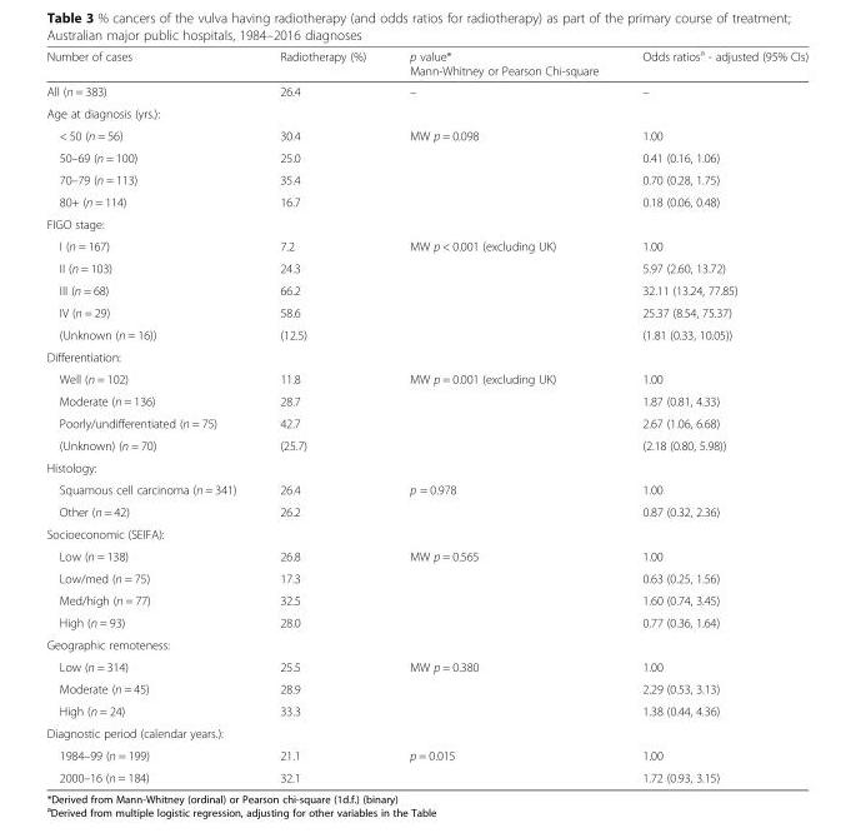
<table><thead><tr><td>Number of cases</td><td>Radiotherapy (%)</td><td>p value* Mann-Whitney or Pearson Chi-square</td><td>Odds ratios<sup>a</sup> - adjusted (95% CIs)</td></tr></thead><tbody><tr><td>All (n = 383)</td><td>26.4</td><td>–</td><td>–</td></tr><tr><td colspan="4">Age at diagnosis (yrs.):</td></tr><tr><td>&lt; 50 (n = 56)</td><td>30.4</td><td rowspan="4">MW p = 0.098</td><td>1.00</td></tr><tr><td>50–69 (n = 100)</td><td>25.0</td><td>0.41 (0.16, 1.06)</td></tr><tr><td>70–79 (n = 113)</td><td>35.4</td><td>0.70 (0.28, 1.75)</td></tr><tr><td>80+ (n = 114)</td><td>16.7</td><td>0.18 (0.06, 0.48)</td></tr><tr><td colspan="4">FIGO stage:</td></tr><tr><td>I (n = 167)</td><td>7.2</td><td rowspan="5">MW p &lt; 0.001 (excluding UK)</td><td>1.00</td></tr><tr><td>II (n = 103)</td><td>24.3</td><td>5.97 (2.60, 13.72)</td></tr><tr><td>III (n = 68)</td><td>66.2</td><td>32.11 (13.24, 77.85)</td></tr><tr><td>IV (n = 29)</td><td>58.6</td><td>25.37 (8.54, 75.37)</td></tr><tr><td>(Unknown (n = 16))</td><td>(12.5)</td><td>(1.81 (0.33, 10.05))</td></tr><tr><td colspan="4">Differentiation:</td></tr><tr><td>Well (n = 102)</td><td>11.8</td><td rowspan="4">MW p = 0.001 (excluding UK)</td><td>1.00</td></tr><tr><td>Moderate (n = 136)</td><td>28.7</td><td>1.87 (0.81, 4.33)</td></tr><tr><td>Poorly/undifferentiated (n = 75)</td><td>42.7</td><td>2.67 (1.06, 6.68)</td></tr><tr><td>(Unknown) (n = 70)</td><td>(25.7)</td><td>(2.18 (0.80, 5.98))</td></tr><tr><td colspan="4">Histology:</td></tr><tr><td>Squamous cell carcinoma (n = 341)</td><td>26.4</td><td rowspan="2">p = 0.978</td><td>1.00</td></tr><tr><td>Other (n = 42)</td><td>26.2</td><td>0.87 (0.32, 2.36)</td></tr><tr><td colspan="4">Socioeconomic (SEIFA):</td></tr><tr><td>Low (n = 138)</td><td>26.8</td><td rowspan="4">MW p = 0.565</td><td>1.00</td></tr><tr><td>Low/med (n = 75)</td><td>17.3</td><td>0.63 (0.25, 1.56)</td></tr><tr><td>Med/high (n = 77)</td><td>32.5</td><td>1.60 (0.74, 3.45)</td></tr><tr><td>High (n = 93)</td><td>28.0</td><td>0.77 (0.36, 1.64)</td></tr><tr><td colspan="4">Geographic remoteness:</td></tr><tr><td>Low (n = 314)</td><td>25.5</td><td rowspan="3">MW p = 0.380</td><td>1.00</td></tr><tr><td>Moderate (n = 45)</td><td>28.9</td><td>2.29 (0.53, 3.13)</td></tr><tr><td>High (n = 24)</td><td>33.3</td><td>1.38 (0.44, 4.36)</td></tr><tr><td colspan="4">Diagnostic period (calendar years.):</td></tr><tr><td>1984–99 (n = 199)</td><td>21.1</td><td rowspan="2">p = 0.015</td><td>1.00</td></tr><tr><td>2000–16 (n = 184)</td><td>32.1</td><td>1.72 (0.93, 3.15)</td></tr></tbody></table>